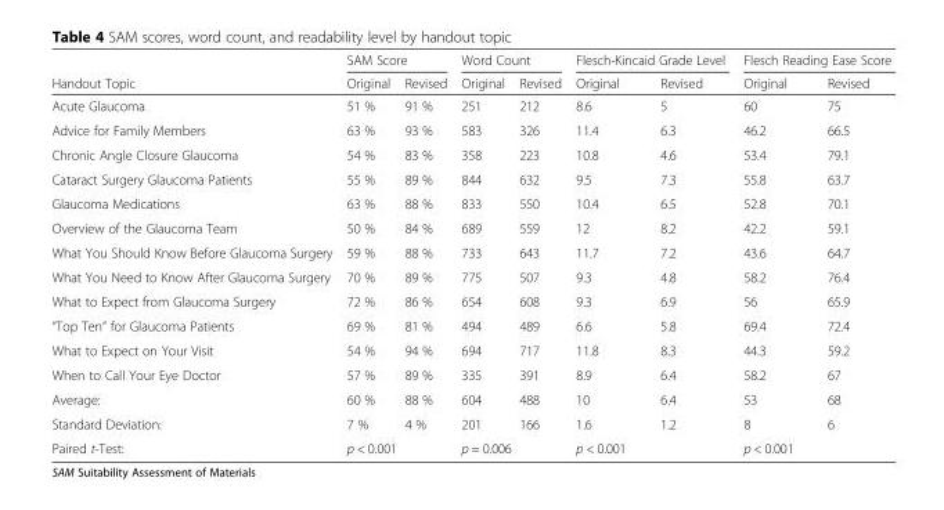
<table><thead><tr><td rowspan="2">Handout Topic</td><td colspan="2">SAM Score</td><td colspan="2">Word Count</td><td colspan="2">Flesch-Kincaid Grade Level</td><td colspan="2">Flesch Reading Ease Score</td></tr><tr><td>Original</td><td>Revised</td><td>Original</td><td>Revised</td><td>Original</td><td>Revised</td><td>Original</td><td>Revised</td></tr></thead><tbody><tr><td>Acute Glaucoma</td><td>51 %</td><td>91 %</td><td>251</td><td>212</td><td>8.6</td><td>5</td><td>60</td><td>75</td></tr><tr><td>Advice for Family Members</td><td>63 %</td><td>93 %</td><td>583</td><td>326</td><td>11.4</td><td>6.3</td><td>46.2</td><td>66.5</td></tr><tr><td>Chronic Angle Closure Glaucoma</td><td>54 %</td><td>83 %</td><td>358</td><td>223</td><td>10.8</td><td>4.6</td><td>53.4</td><td>79.1</td></tr><tr><td>Cataract Surgery Glaucoma Patients</td><td>55 %</td><td>89 %</td><td>844</td><td>632</td><td>9.5</td><td>7.3</td><td>55.8</td><td>63.7</td></tr><tr><td>Glaucoma Medications</td><td>63 %</td><td>88 %</td><td>833</td><td>550</td><td>10.4</td><td>6.5</td><td>52.8</td><td>70.1</td></tr><tr><td>Overview of the Glaucoma Team</td><td>50 %</td><td>84 %</td><td>689</td><td>559</td><td>12</td><td>8.2</td><td>42.2</td><td>59.1</td></tr><tr><td>What You Should Know Before Glaucoma Surgery</td><td>59 %</td><td>88 %</td><td>733</td><td>643</td><td>11.7</td><td>7.2</td><td>43.6</td><td>64.7</td></tr><tr><td>What You Need to Know After Glaucoma Surgery</td><td>70 %</td><td>89 %</td><td>775</td><td>507</td><td>9.3</td><td>4.8</td><td>58.2</td><td>76.4</td></tr><tr><td>What to Expect from Glaucoma Surgery</td><td>72 %</td><td>86 %</td><td>654</td><td>608</td><td>9.3</td><td>6.9</td><td>56</td><td>65.9</td></tr><tr><td>“Top Ten” for Glaucoma Patients</td><td>69 %</td><td>81 %</td><td>494</td><td>489</td><td>6.6</td><td>5.8</td><td>69.4</td><td>72.4</td></tr><tr><td>What to Expect on Your Visit</td><td>54 %</td><td>94 %</td><td>694</td><td>717</td><td>11.8</td><td>8.3</td><td>44.3</td><td>59.2</td></tr><tr><td>When to Call Your Eye Doctor</td><td>57 %</td><td>89 %</td><td>335</td><td>391</td><td>8.9</td><td>6.4</td><td>58.2</td><td>67</td></tr><tr><td>Average:</td><td>60 %</td><td>88 %</td><td>604</td><td>488</td><td>10</td><td>6.4</td><td>53</td><td>68</td></tr><tr><td>Standard Deviation:</td><td>7 %</td><td>4 %</td><td>201</td><td>166</td><td>1.6</td><td>1.2</td><td>8</td><td>6</td></tr><tr><td>Paired t-Test:</td><td colspan="2">p &lt; 0.001</td><td colspan="2">p = 0.006</td><td colspan="2">p &lt; 0.001</td><td colspan="2">p &lt; 0.001</td></tr></tbody></table>